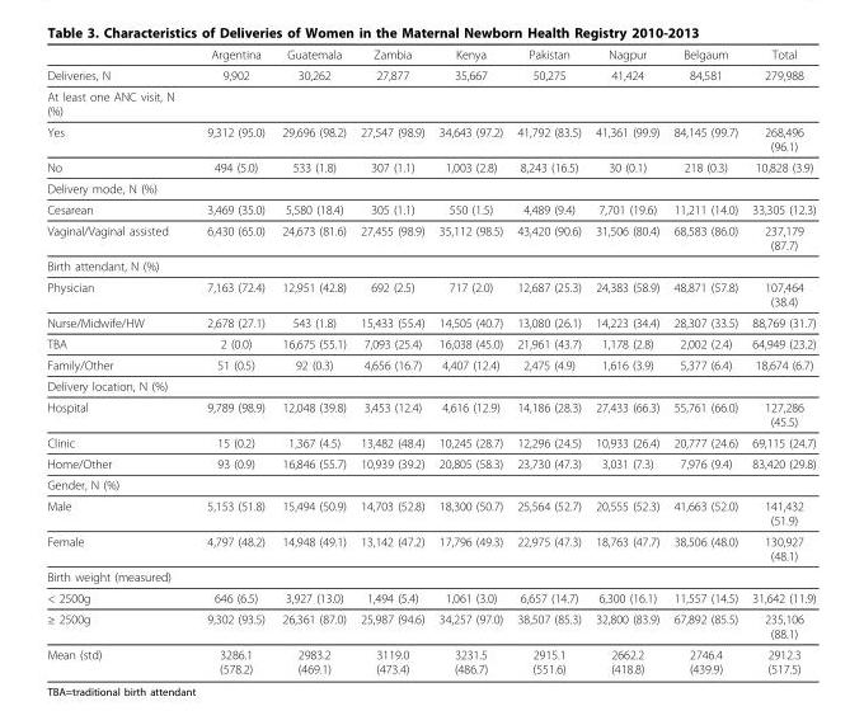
<table><thead><tr><td></td><td>Argentina</td><td>Guatemala</td><td>Zambia</td><td>Kenya</td><td>Pakistan</td><td>Nagpur</td><td>Belgaum</td><td>Total</td></tr></thead><tbody><tr><td>Deliveries, N</td><td>9,902</td><td>30,262</td><td>27,877</td><td>35,667</td><td>50,275</td><td>41,424</td><td>84,581</td><td>279,988</td></tr><tr><td colspan="9">At least one ANC visit, N (%)</td></tr><tr><td>Yes</td><td>9,312 (95.0)</td><td>29,696 (98.2)</td><td>27,547 (98.9)</td><td>34,643 (97.2)</td><td>41,792 (83.5)</td><td>41,361 (99.9)</td><td>84,145 (99.7)</td><td>268,496 (96.1)</td></tr><tr><td>No</td><td>494 (5.0)</td><td>533 (1.8)</td><td>307 (1.1)</td><td>1,003 (2.8)</td><td>8,243 (16.5)</td><td>30 (0.1)</td><td>218 (0.3)</td><td>10,828 (3.9)</td></tr><tr><td colspan="9">Delivery mode, N (%)</td></tr><tr><td>Cesarean</td><td>3,469 (35.0)</td><td>5,580 (18.4)</td><td>305 (1.1)</td><td>550 (1.5)</td><td>4,489 (9.4)</td><td>7,701 (19.6)</td><td>11,211 (14.0)</td><td>33,305 (12.3)</td></tr><tr><td>Vaginal/Vaginal assisted</td><td>6,430 (65.0)</td><td>24,673 (81.6)</td><td>27,455 (98.9)</td><td>35,112 (98.5)</td><td>43,420 (90.6)</td><td>31,506 (80.4)</td><td>68,583 (86.0)</td><td>237,179 (87.7)</td></tr><tr><td colspan="9">Birth attendant, N (%)</td></tr><tr><td>Physician</td><td>7,163 (72.4)</td><td>12,951 (42.8)</td><td>692 (2.5)</td><td>717 (2.0)</td><td>12,687 (25.3)</td><td>24,383 (58.9)</td><td>48,871 (57.8)</td><td>107,464 (38.4)</td></tr><tr><td>Nurse/Midwife/HW</td><td>2,678 (27.1)</td><td>543 (1.8)</td><td>15,433 (55.4)</td><td>14,505 (40.7)</td><td>13,080 (26.1)</td><td>14,223 (34.4)</td><td>28,307 (33.5)</td><td>88,769 (31.7)</td></tr><tr><td>TBA</td><td>2 (0.0)</td><td>16,675 (55.1)</td><td>7,093 (25.4)</td><td>16,038 (45.0)</td><td>21,961 (43.7)</td><td>1,178 (2.8)</td><td>2,002 (2.4)</td><td>64,949 (23.2)</td></tr><tr><td>Family/Other</td><td>51 (0.5)</td><td>92 (0.3)</td><td>4,656 (16.7)</td><td>4,407 (12.4)</td><td>2,475 (4.9)</td><td>1,616 (3.9)</td><td>5,377 (6.4)</td><td>18,674 (6.7)</td></tr><tr><td colspan="9">Delivery location, N (%)</td></tr><tr><td>Hospital</td><td>9,789 (98.9)</td><td>12,048 (39.8)</td><td>3,453 (12.4)</td><td>4,616 (12.9)</td><td>14,186 (28.3)</td><td>27,433 (66.3)</td><td>55,761 (66.0)</td><td>127,286 (45.5)</td></tr><tr><td>Clinic</td><td>15 (0.2)</td><td>1,367 (4.5)</td><td>13,482 (48.4)</td><td>10,245 (28.7)</td><td>12,296 (24.5)</td><td>10,933 (26.4)</td><td>20,777 (24.6)</td><td>69,115 (24.7)</td></tr><tr><td>Home/Other</td><td>93 (0.9)</td><td>16,846 (55.7)</td><td>10,939 (39.2)</td><td>20,805 (58.3)</td><td>23,730 (47.3)</td><td>3,031 (7.3)</td><td>7,976 (9.4)</td><td>83,420 (29.8)</td></tr><tr><td colspan="9">Gender, N (%)</td></tr><tr><td>Male</td><td>5,153 (51.8)</td><td>15,494 (50.9)</td><td>14,703 (52.8)</td><td>18,300 (50.7)</td><td>25,564 (52.7)</td><td>20,555 (52.3)</td><td>41,663 (52.0)</td><td>141,432 (51.9)</td></tr><tr><td>Female</td><td>4,797 (48.2)</td><td>14,948 (49.1)</td><td>13,142 (47.2)</td><td>17,796 (49.3)</td><td>22,975 (47.3)</td><td>18,763 (47.7)</td><td>38,506 (48.0)</td><td>130,927 (48.1)</td></tr><tr><td colspan="9">Birth weight (measured)</td></tr><tr><td>&lt; 2500g</td><td>646 (6.5)</td><td>3,927 (13.0)</td><td>1,494 (5.4)</td><td>1,061 (3.0)</td><td>6,657 (14.7)</td><td>6,300 (16.1)</td><td>11,557 (14.5)</td><td>31,642 (11.9)</td></tr><tr><td>≥ 2500g</td><td>9,302 (93.5)</td><td>26,361 (87.0)</td><td>25,987 (94.6)</td><td>34,257 (97.0)</td><td>38,507 (85.3)</td><td>32,800 (83.9)</td><td>67,892 (85.5)</td><td>235,106 (88.1)</td></tr><tr><td>Mean (std)</td><td>3286.1 (578.2)</td><td>2983.2 (469.1)</td><td>3119.0 (473.4)</td><td>3231.5 (486.7)</td><td>2915.1 (551.6)</td><td>2662.2 (418.8)</td><td>2746.4 (439.9)</td><td>2912.3 (517.5)</td></tr></tbody></table>